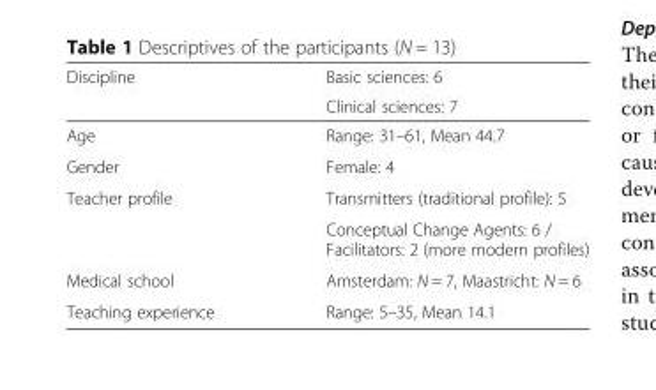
<table><thead><tr><td rowspan="2">Discipline</td><td rowspan="2">Basic sciences: 6 Clinical sciences: 7</td></tr><tr></tr></thead><tbody><tr><td>Age</td><td>Range: 31–61, Mean 44.7</td></tr><tr><td>Gender</td><td>Female: 4</td></tr><tr><td rowspan="2">Teacher profile</td><td>Transmitters (traditional profile): 5</td></tr><tr><td>Conceptual Change Agents: 6 / Facilitators: 2 (more modern profiles)</td></tr><tr><td>Medical school</td><td>Amsterdam: N = 7, Maastricht: N = 6</td></tr><tr><td>Teaching experience</td><td>Range: 5–35, Mean 14.1</td></tr></tbody></table>